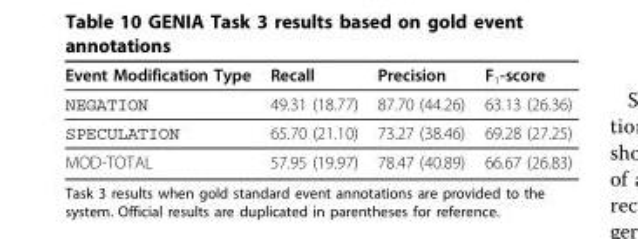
<table><thead><tr><td>Event Modification Type</td><td>Recall</td><td>Precision</td><td>F<sub>1</sub>-score</td></tr></thead><tbody><tr><td>NEGATION</td><td>49.31 (18.77)</td><td>87.70 (44.26)</td><td>63.13 (26.36)</td></tr><tr><td>SPECULATION</td><td>65.70 (21.10)</td><td>73.27 (38.46)</td><td>69.28 (27.25)</td></tr><tr><td>MOD-TOTAL</td><td>57.95 (19.97)</td><td>78.47 (40.89)</td><td>66.67 (26.83)</td></tr></tbody></table>